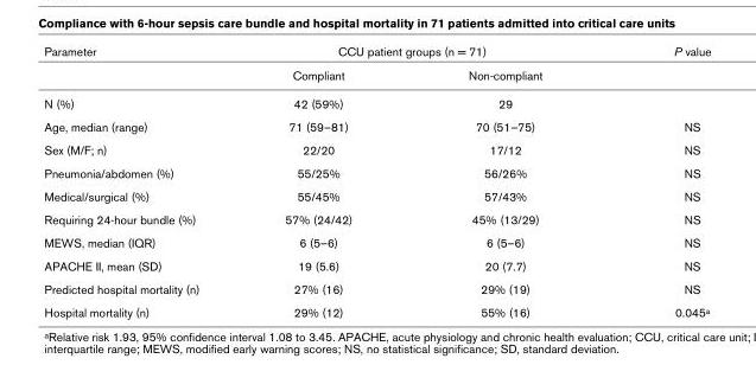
<table><thead><tr><td rowspan="2">Parameter</td><td colspan="2">CCU patient groups (n = 71)</td><td rowspan="2">P value</td></tr><tr><td>Compliant</td><td>Non-compliant</td></tr></thead><tbody><tr><td>N (%)</td><td>42 (59%)</td><td>29</td><td></td></tr><tr><td>Age, median (range)</td><td>71 (59–81)</td><td>70 (51–75)</td><td>NS</td></tr><tr><td>Sex (M/F; n)</td><td>22/20</td><td>17/12</td><td>NS</td></tr><tr><td>Pneumonia/abdomen (%)</td><td>55/25%</td><td>56/26%</td><td>NS</td></tr><tr><td>Medical/surgical (%)</td><td>55/45%</td><td>57/43%</td><td>NS</td></tr><tr><td>Requiring 24-hour bundle (%)</td><td>57% (24/42)</td><td>45% (13/29)</td><td>NS</td></tr><tr><td>MEWS, median (IQR)</td><td>6 (5–6)</td><td>6 (5–6)</td><td>NS</td></tr><tr><td>APACHE II, mean (SD)</td><td>19 (5.6)</td><td>20 (7.7)</td><td>NS</td></tr><tr><td>Predicted hospital mortality (n)</td><td>27% (16)</td><td>29% (19)</td><td>NS</td></tr><tr><td>Hospital mortality (n)</td><td>29% (12)</td><td>55% (16)</td><td>0.045a</td></tr></tbody></table>